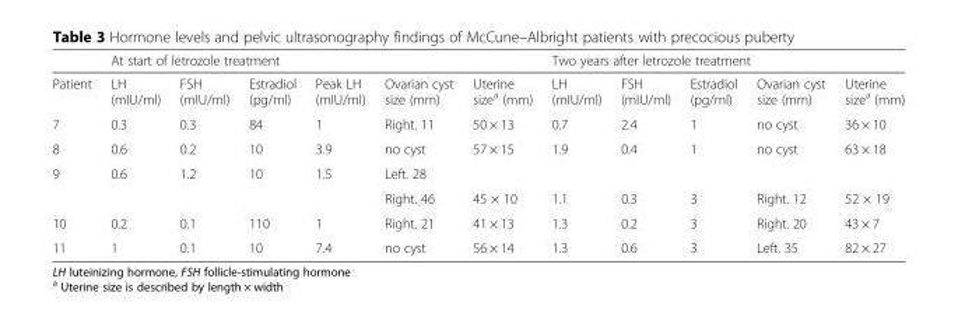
<table><thead><tr><td rowspan="2">Patient</td><td colspan="5">At start of letrozole treatment</td><td rowspan="2">Uterine size<sup>a</sup> (mm)</td><td colspan="5">Two years after letrozole treatment</td></tr><tr><td>LH (mIU/ml)</td><td>FSH (mIU/ml)</td><td>Estradiol (pg/ml)</td><td>Peak LH (mIU/ml)</td><td>Ovarian cyst size (mm)</td><td>LH (mIU/ml)</td><td>FSH (mIU/ml)</td><td>Estradiol (pg/ml)</td><td>Ovarian cyst size (mm)</td><td>Uterine size<sup>a</sup> (mm)</td></tr></thead><tbody><tr><td>7</td><td>0.3</td><td>0.3</td><td>84</td><td>1</td><td>Right. 11</td><td>50 × 13</td><td>0.7</td><td>2.4</td><td>1</td><td>no cyst</td><td>36 × 10</td></tr><tr><td>8</td><td>0.6</td><td>0.2</td><td>10</td><td>3.9</td><td>no cyst</td><td>57 × 15</td><td>1.9</td><td>0.4</td><td>1</td><td>no cyst</td><td>63 × 18</td></tr><tr><td rowspan="2">9</td><td>0.6</td><td>1.2</td><td>10</td><td>1.5</td><td>Left. 28</td><td></td><td></td><td></td><td></td><td></td><td></td></tr><tr><td></td><td></td><td></td><td></td><td>Right. 46</td><td>45 × 10</td><td>1.1</td><td>0.3</td><td>3</td><td>Right. 12</td><td>52 × 19</td></tr><tr><td>10</td><td>0.2</td><td>0.1</td><td>110</td><td>1</td><td>Right. 21</td><td>41 × 13</td><td>1.3</td><td>0.2</td><td>3</td><td>Right. 20</td><td>43 × 7</td></tr><tr><td>11</td><td>1</td><td>0.1</td><td>10</td><td>7.4</td><td>no cyst</td><td>56 × 14</td><td>1.3</td><td>0.6</td><td>3</td><td>Left. 35</td><td>82 × 27</td></tr></tbody></table>